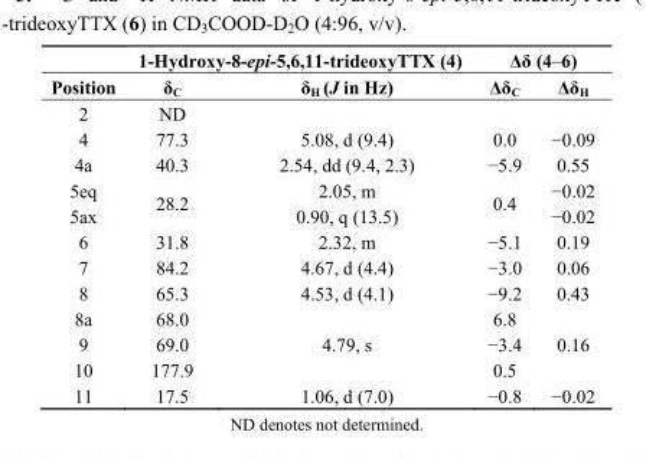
<table><thead><tr><td rowspan="2">Position</td><td colspan="2">1-Hydroxy-8-epi-5,6,11-trideoxyTTX (4)</td><td colspan="2">Δδ (4–6)</td></tr><tr><td>δ<sub>C</sub></td><td>δ<sub>H</sub> (J in Hz)</td><td>Δδ<sub>C</sub></td><td>Δδ<sub>H</sub></td></tr></thead><tbody><tr><td>2</td><td>ND</td><td></td><td></td><td></td></tr><tr><td>4</td><td>77.3</td><td>5.08, d (9.4)</td><td>0.0</td><td>−0.09</td></tr><tr><td>4a</td><td>40.3</td><td>2.54, dd (9.4, 2.3)</td><td>−5.9</td><td>0.55</td></tr><tr><td>5eq</td><td rowspan="2">28.2</td><td>2.05, m</td><td rowspan="2">0.4</td><td>−0.02</td></tr><tr><td>5ax</td><td>0.90, q (13.5)</td><td>−0.02</td></tr><tr><td>6</td><td>31.8</td><td>2.32, m</td><td>−5.1</td><td>0.19</td></tr><tr><td>7</td><td>84.2</td><td>4.67, d (4.4)</td><td>−3.0</td><td>0.06</td></tr><tr><td>8</td><td>65.3</td><td>4.53, d (4.1)</td><td>−9.2</td><td>0.43</td></tr><tr><td>8a</td><td>68.0</td><td></td><td>6.8</td><td></td></tr><tr><td>9</td><td>69.0</td><td>4.79, s</td><td>−3.4</td><td>0.16</td></tr><tr><td>10</td><td>177.9</td><td></td><td>0.5</td><td></td></tr><tr><td>11</td><td>17.5</td><td>1.06, d (7.0)</td><td>−0.8</td><td>−0.02</td></tr></tbody></table>